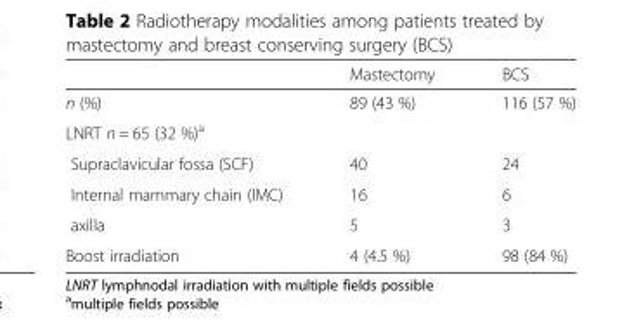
<table><thead><tr><td></td><td>Mastectomy</td><td>BCS</td></tr></thead><tbody><tr><td>n (%)</td><td>89 (43 %)</td><td>116 (57 %)</td></tr><tr><td colspan="3">LNRT n = 65 (32 %)<sup>a</sup></td></tr><tr><td>Supraclavicular fossa (SCF)</td><td>40</td><td>24</td></tr><tr><td>Internal mammary chain (IMC)</td><td>16</td><td>6</td></tr><tr><td>axilla</td><td>5</td><td>3</td></tr><tr><td>Boost irradiation</td><td>4 (4.5 %)</td><td>98 (84 %)</td></tr></tbody></table>